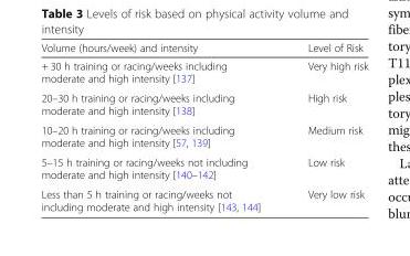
<table><thead><tr><td>Volume (hours/week) and intensity</td><td>Level of Risk</td></tr></thead><tbody><tr><td>+ 30 h training or racing/weeks including moderate and high intensity [137]</td><td>Very high risk</td></tr><tr><td>20–30 h training or racing/weeks including moderate and high intensity [138]</td><td>High risk</td></tr><tr><td>10–20 h training or racing/weeks including moderate and high intensity [57, 139]</td><td>Medium risk</td></tr><tr><td>5–15 h training or racing/weeks not including moderate and high intensity [140–142]</td><td>Low risk</td></tr><tr><td>Less than 5 h training or racing/weeks not including moderate and high intensity [143, 144]</td><td>Very low risk</td></tr></tbody></table>